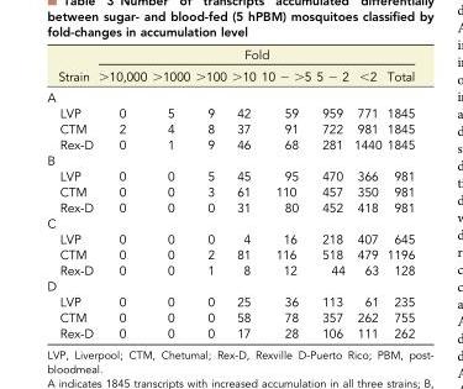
<table><thead><tr><td rowspan="2">Strain</td><td colspan="8">Fold</td></tr><tr><td>&gt;10,000</td><td>&gt;1000</td><td>&gt;100</td><td>&gt;10</td><td>10 − &gt;5</td><td>5 − 2</td><td>&lt;2</td><td>Total</td></tr></thead><tbody><tr><td colspan="9">A</td></tr><tr><td>LVP</td><td>0</td><td>5</td><td>9</td><td>42</td><td>59</td><td>959</td><td>771</td><td>1845</td></tr><tr><td>CTM</td><td>2</td><td>4</td><td>8</td><td>37</td><td>91</td><td>722</td><td>981</td><td>1845</td></tr><tr><td>Rex-D</td><td>0</td><td>1</td><td>9</td><td>46</td><td>68</td><td>281</td><td>1440</td><td>1845</td></tr><tr><td colspan="9">B</td></tr><tr><td>LVP</td><td>0</td><td>0</td><td>5</td><td>45</td><td>95</td><td>470</td><td>366</td><td>981</td></tr><tr><td>CTM</td><td>0</td><td>0</td><td>3</td><td>61</td><td>110</td><td>457</td><td>350</td><td>981</td></tr><tr><td>Rex-D</td><td>0</td><td>0</td><td>0</td><td>31</td><td>80</td><td>452</td><td>418</td><td>981</td></tr><tr><td colspan="9">C</td></tr><tr><td>LVP</td><td>0</td><td>0</td><td>0</td><td>4</td><td>16</td><td>218</td><td>407</td><td>645</td></tr><tr><td>CTM</td><td>0</td><td>0</td><td>2</td><td>81</td><td>116</td><td>518</td><td>479</td><td>1196</td></tr><tr><td>Rex-D</td><td>0</td><td>0</td><td>1</td><td>8</td><td>12</td><td>44</td><td>63</td><td>128</td></tr><tr><td colspan="9">D</td></tr><tr><td>LVP</td><td>0</td><td>0</td><td>0</td><td>25</td><td>36</td><td>113</td><td>61</td><td>235</td></tr><tr><td>CTM</td><td>0</td><td>0</td><td>0</td><td>58</td><td>78</td><td>357</td><td>262</td><td>755</td></tr><tr><td>Rex-D</td><td>0</td><td>0</td><td>0</td><td>17</td><td>28</td><td>106</td><td>111</td><td>262</td></tr></tbody></table>